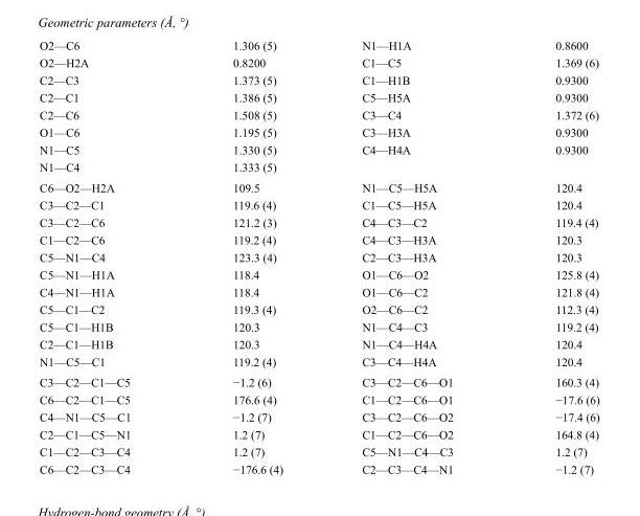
<table><tbody><tr><td>O2—C6</td><td>1.306 (5)</td><td>N1—H1A</td><td>0.8600</td></tr><tr><td>O2—H2A</td><td>0.8200</td><td>C1—C5</td><td>1.369 (6)</td></tr><tr><td>C2—C3</td><td>1.373 (5)</td><td>C1—H1B</td><td>0.9300</td></tr><tr><td>C2—C1</td><td>1.386 (5)</td><td>C5—H5A</td><td>0.9300</td></tr><tr><td>C2—C6</td><td>1.508 (5)</td><td>C3—C4</td><td>1.372 (6)</td></tr><tr><td>O1—C6</td><td>1.195 (5)</td><td>C3—H3A</td><td>0.9300</td></tr><tr><td>N1—C5</td><td>1.330 (5)</td><td>C4—H4A</td><td>0.9300</td></tr><tr><td>N1—C4</td><td>1.333 (5)</td><td></td><td></td></tr><tr><td>C6—O2—H2A</td><td>109.5</td><td>N1—C5—H5A</td><td>120.4</td></tr><tr><td>C3—C2—C1</td><td>119.6 (4)</td><td>C1—C5—H5A</td><td>120.4</td></tr><tr><td>C3—C2—C6</td><td>121.2 (3)</td><td>C4—C3—C2</td><td>119.4 (4)</td></tr><tr><td>C1—C2—C6</td><td>119.2 (4)</td><td>C4—C3—H3A</td><td>120.3</td></tr><tr><td>C5—N1—C4</td><td>123.3 (4)</td><td>C2—C3—H3A</td><td>120.3</td></tr><tr><td>C5—N1—H1A</td><td>118.4</td><td>O1—C6—O2</td><td>125.8 (4)</td></tr><tr><td>C4—N1—H1A</td><td>118.4</td><td>O1—C6—C2</td><td>121.8 (4)</td></tr><tr><td>C5—C1—C2</td><td>119.3 (4)</td><td>O2—C6—C2</td><td>112.3 (4)</td></tr><tr><td>C5—C1—H1B</td><td>120.3</td><td>N1—C4—C3</td><td>119.2 (4)</td></tr><tr><td>C2—C1—H1B</td><td>120.3</td><td>N1—C4—H4A</td><td>120.4</td></tr><tr><td>N1—C5—C1</td><td>119.2 (4)</td><td>C3—C4—H4A</td><td>120.4</td></tr><tr><td>C3—C2—C1—C5</td><td>−1.2 (6)</td><td>C3—C2—C6—O1</td><td>160.3 (4)</td></tr><tr><td>C6—C2—C1—C5</td><td>176.6 (4)</td><td>C1—C2—C6—O1</td><td>−17.6 (6)</td></tr><tr><td>C4—N1—C5—C1</td><td>−1.2 (7)</td><td>C3—C2—C6—O2</td><td>−17.4 (6)</td></tr><tr><td>C2—C1—C5—N1</td><td>1.2 (7)</td><td>C1—C2—C6—O2</td><td>164.8 (4)</td></tr><tr><td>C1—C2—C3—C4</td><td>1.2 (7)</td><td>C5—N1—C4—C3</td><td>1.2 (7)</td></tr><tr><td>C6—C2—C3—C4</td><td>−176.6 (4)</td><td>C2—C3—C4—N1</td><td>−1.2 (7)</td></tr></tbody></table>